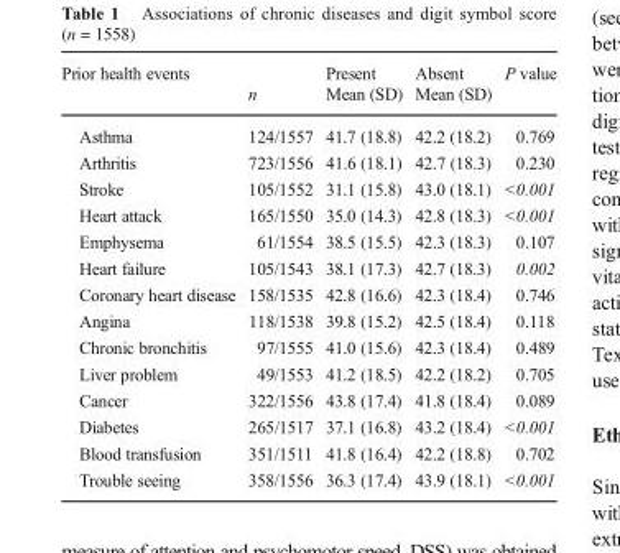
<table><thead><tr><td rowspan="2">Prior health events</td><td rowspan="2">n</td><td rowspan="2">Present Mean (SD)</td><td rowspan="2">Absent Mean (SD)</td><td rowspan="2">P value</td></tr><tr></tr></thead><tbody><tr><td>Asthma</td><td>124/1557</td><td>41.7 (18.8)</td><td>42.2 (18.2)</td><td>0.769</td></tr><tr><td>Arthritis</td><td>723/1556</td><td>41.6 (18.1)</td><td>42.7 (18.3)</td><td>0.230</td></tr><tr><td>Stroke</td><td>105/1552</td><td>31.1 (15.8)</td><td>43.0 (18.1)</td><td>&lt;0.001</td></tr><tr><td>Heart attack</td><td>165/1550</td><td>35.0 (14.3)</td><td>42.8 (18.3)</td><td>&lt;0.001</td></tr><tr><td>Emphysema</td><td>61/1554</td><td>38.5 (15.5)</td><td>42.3 (18.3)</td><td>0.107</td></tr><tr><td>Heart failure</td><td>105/1543</td><td>38.1 (17.3)</td><td>42.7 (18.3)</td><td>0.002</td></tr><tr><td>Coronary heart disease</td><td>158/1535</td><td>42.8 (16.6)</td><td>42.3 (18.4)</td><td>0.746</td></tr><tr><td>Angina</td><td>118/1538</td><td>39.8 (15.2)</td><td>42.5 (18.4)</td><td>0.118</td></tr><tr><td>Chronic bronchitis</td><td>97/1555</td><td>41.0 (15.6)</td><td>42.3 (18.4)</td><td>0.489</td></tr><tr><td>Liver problem</td><td>49/1553</td><td>41.2 (18.5)</td><td>42.2 (18.2)</td><td>0.705</td></tr><tr><td>Cancer</td><td>322/1556</td><td>43.8 (17.4)</td><td>41.8 (18.4)</td><td>0.089</td></tr><tr><td>Diabetes</td><td>265/1517</td><td>37.1 (16.8)</td><td>43.2 (18.4)</td><td>&lt;0.001</td></tr><tr><td>Blood transfusion</td><td>351/1511</td><td>41.8 (16.4)</td><td>42.2 (18.8)</td><td>0.702</td></tr><tr><td>Trouble seeing</td><td>358/1556</td><td>36.3 (17.4)</td><td>43.9 (18.1)</td><td>&lt;0.001</td></tr></tbody></table>